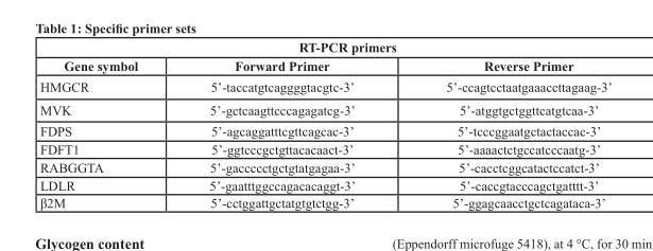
<table><thead><tr><td colspan="3">RT-PCR primers</td></tr><tr><td>Gene symbol</td><td>Forward Primer</td><td>Reverse Primer</td></tr></thead><tbody><tr><td>HMGCR</td><td>5’-taccatgtcaggggtacgtc-3’</td><td>5’-ccagtcctaatgaaaccttagaag-3’</td></tr><tr><td>MVK</td><td>5’-gctcaagttcccagagatcg-3’</td><td>5’-atggtgctggttcatgtcaa-3’</td></tr><tr><td>FDPS</td><td>5’-agcaggatttcgttcagcac-3’</td><td>5’-tcccggaatgctactaccac-3’</td></tr><tr><td>FDFT1</td><td>5’-ggtcccgctgttacacaact-3’</td><td>5’-aaaactctgccatcccaatg-3’</td></tr><tr><td>RABGGTA</td><td>5’-gaccccctgctgtatgagaa-3’</td><td>5’-cacctcggcatactccatct-3’</td></tr><tr><td>LDLR</td><td>5’-gaatttggccagacacaggt-3’</td><td>5’-caccgtacccagctgatttt-3’</td></tr><tr><td>β2M</td><td>5’-cctggattgctatgtgtctgg-3’</td><td>5’-ggagcaacctgctcagataca-3’</td></tr></tbody></table>